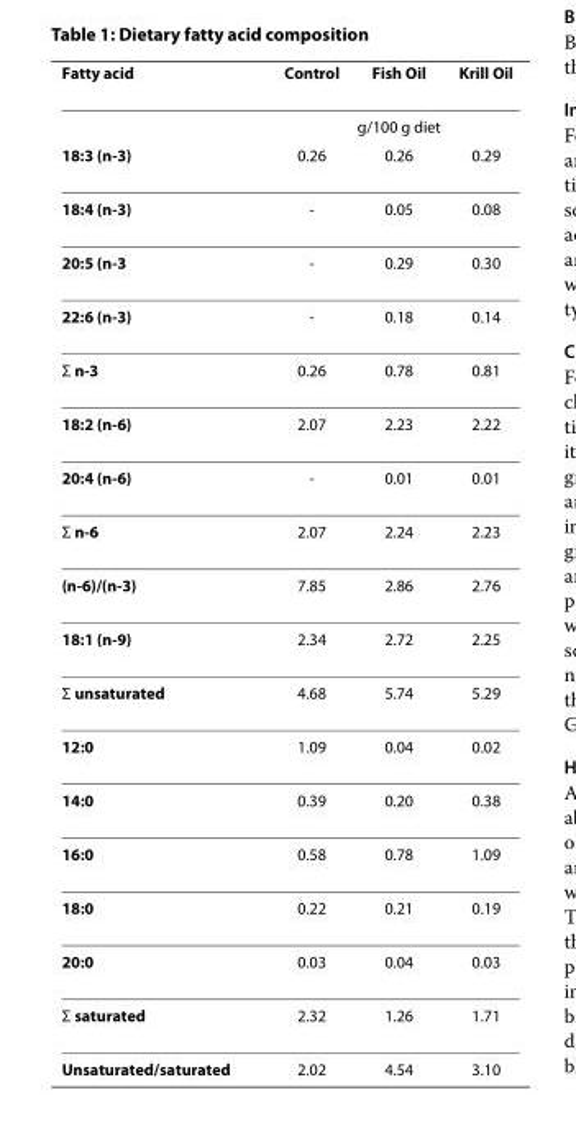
<table><thead><tr><td>Fatty acid</td><td>Control</td><td>Fish Oil</td><td>Krill Oil</td></tr></thead><tbody><tr><td></td><td colspan="3">g/100 g diet</td></tr><tr><td>18:3 (n-3)</td><td>0.26</td><td>0.26</td><td>0.29</td></tr><tr><td>18:4 (n-3)</td><td>-</td><td>0.05</td><td>0.08</td></tr><tr><td>20:5 (n-3</td><td>-</td><td>0.29</td><td>0.30</td></tr><tr><td>22:6 (n-3)</td><td>-</td><td>0.18</td><td>0.14</td></tr><tr><td>Σ n-3</td><td>0.26</td><td>0.78</td><td>0.81</td></tr><tr><td>18:2 (n-6)</td><td>2.07</td><td>2.23</td><td>2.22</td></tr><tr><td>20:4 (n-6)</td><td>-</td><td>0.01</td><td>0.01</td></tr><tr><td>Σ n-6</td><td>2.07</td><td>2.24</td><td>2.23</td></tr><tr><td>(n-6)/(n-3)</td><td>7.85</td><td>2.86</td><td>2.76</td></tr><tr><td>18:1 (n-9)</td><td>2.34</td><td>2.72</td><td>2.25</td></tr><tr><td>Σ unsaturated</td><td>4.68</td><td>5.74</td><td>5.29</td></tr><tr><td>12:0</td><td>1.09</td><td>0.04</td><td>0.02</td></tr><tr><td>14:0</td><td>0.39</td><td>0.20</td><td>0.38</td></tr><tr><td>16:0</td><td>0.58</td><td>0.78</td><td>1.09</td></tr><tr><td>18:0</td><td>0.22</td><td>0.21</td><td>0.19</td></tr><tr><td>20:0</td><td>0.03</td><td>0.04</td><td>0.03</td></tr><tr><td>Σ saturated</td><td>2.32</td><td>1.26</td><td>1.71</td></tr><tr><td>Unsaturated/saturated</td><td>2.02</td><td>4.54</td><td>3.10</td></tr></tbody></table>